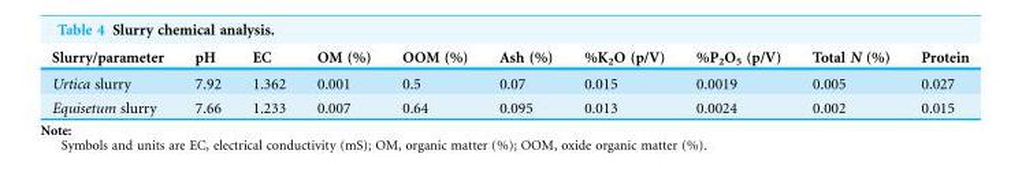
<table><thead><tr><td>Slurry/parameter</td><td>pH</td><td>EC</td><td>OM (%)</td><td>OOM (%)</td><td>Ash (%)</td><td>%K<sub>2</sub>O (p/V)</td><td>%P<sub>2</sub>O<sub>5</sub> (p/V)</td><td>Total N (%)</td><td>Protein</td></tr></thead><tbody><tr><td>Urtica slurry</td><td>7.92</td><td>1.362</td><td>0.001</td><td>0.5</td><td>0.07</td><td>0.015</td><td>0.0019</td><td>0.005</td><td>0.027</td></tr><tr><td>Equisetum slurry</td><td>7.66</td><td>1.233</td><td>0.007</td><td>0.64</td><td>0.095</td><td>0.013</td><td>0.0024</td><td>0.002</td><td>0.015</td></tr></tbody></table>